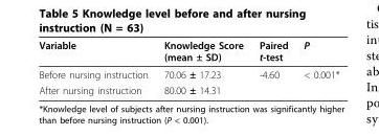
<table><thead><tr><td>Variable</td><td>Knowledge Score (mean ± SD)</td><td>Paired t-test</td><td>P</td></tr></thead><tbody><tr><td>Before nursing instruction</td><td>70.06 ± 17.23</td><td>-4.60</td><td>&lt; 0.001*</td></tr><tr><td>After nursing instruction</td><td>80.00 ± 14.31</td><td></td><td></td></tr></tbody></table>